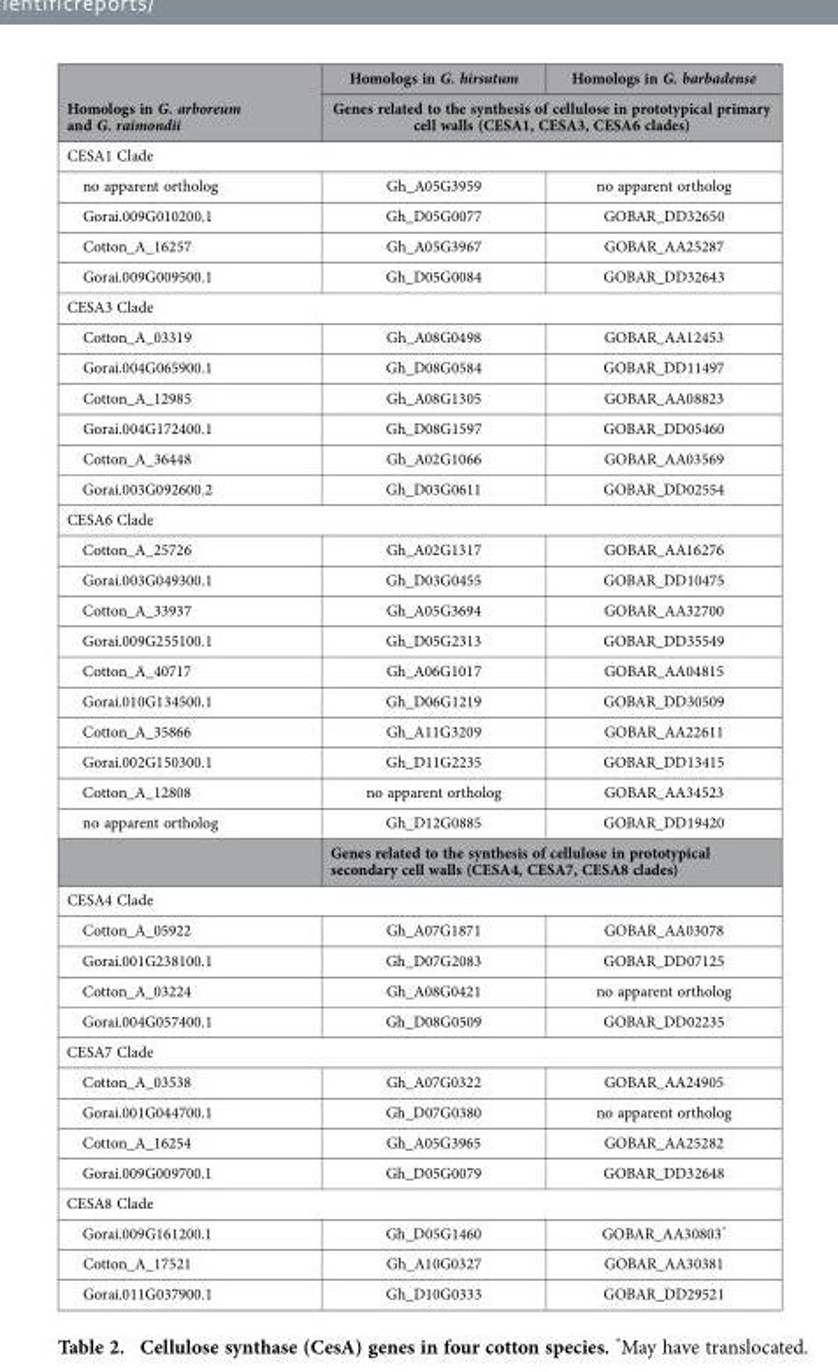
<table><thead><tr><td rowspan="2">Homologs in G. arboreum and G. raimondii</td><td>Homologs in G. hirsutum</td><td>Homologs in G. barbadense</td></tr><tr><td colspan="2">Genes related to the synthesis of cellulose in prototypical primary cell walls (CESA1, CESA3, CESA6 clades)</td></tr></thead><tbody><tr><td colspan="3">CESA1 Clade</td></tr><tr><td>no apparent ortholog</td><td>Gh_A05G3959</td><td>no apparent ortholog</td></tr><tr><td>Gorai.009G010200.1</td><td>Gh_D05G0077</td><td>GOBAR_DD32650</td></tr><tr><td>Cotton_A_16257</td><td>Gh_A05G3967</td><td>GOBAR_AA25287</td></tr><tr><td>Gorai.009G009500.1</td><td>Gh_D05G0084</td><td>GOBAR_DD32643</td></tr><tr><td colspan="3">CESA3 Clade</td></tr><tr><td>Cotton_A_03319</td><td>Gh_A08G0498</td><td>GOBAR_AA12453</td></tr><tr><td>Gorai.004G065900.1</td><td>Gh_D08G0584</td><td>GOBAR_DD11497</td></tr><tr><td>Cotton_A_12985</td><td>Gh_A08G1305</td><td>GOBAR_AA08823</td></tr><tr><td>Gorai.004G172400.1</td><td>Gh_D08G1597</td><td>GOBAR_DD05460</td></tr><tr><td>Cotton_A_36448</td><td>Gh_A02G1066</td><td>GOBAR_AA03569</td></tr><tr><td>Gorai.003G092600.2</td><td>Gh_D03G0611</td><td>GOBAR_DD02554</td></tr><tr><td colspan="3">CESA6 Clade</td></tr><tr><td>Cotton_A_25726</td><td>Gh_A02G1317</td><td>GOBAR_AA16276</td></tr><tr><td>Gorai.003G049300.1</td><td>Gh_D03G0455</td><td>GOBAR_DD10475</td></tr><tr><td>Cotton_A_33937</td><td>Gh_A05G3694</td><td>GOBAR_AA32700</td></tr><tr><td>Gorai.009G255100.1</td><td>Gh_D05G2313</td><td>GOBAR_DD35549</td></tr><tr><td>Cotton_A_40717</td><td>Gh_A06G1017</td><td>GOBAR_AA04815</td></tr><tr><td>Gorai.010G134500.1</td><td>Gh_D06G1219</td><td>GOBAR_DD30509</td></tr><tr><td>Cotton_A_35866</td><td>Gh_A11G3209</td><td>GOBAR_AA22611</td></tr><tr><td>Gorai.002G150300.1</td><td>Gh_D11G2235</td><td>GOBAR_DD13415</td></tr><tr><td>Cotton_A_12808</td><td>no apparent ortholog</td><td>GOBAR_AA34523</td></tr><tr><td rowspan="2">no apparent ortholog</td><td>Gh_D12G0885</td><td>GOBAR_DD19420</td></tr><tr><td colspan="2">Genes related to the synthesis of cellulose in prototypical secondary cell walls (CESA4, CESA7, CESA8 clades)</td></tr><tr><td colspan="3">CESA4 Clade</td></tr><tr><td>Cotton_A_05922</td><td>Gh_A07G1871</td><td>GOBAR_AA03078</td></tr><tr><td>Gorai.001G238100.1</td><td>Gh_D07G2083</td><td>GOBAR_DD07125</td></tr><tr><td>Cotton_A_03224</td><td>Gh_A08G0421</td><td>no apparent ortholog</td></tr><tr><td>Gorai.004G057400.1</td><td>Gh_D08G0509</td><td>GOBAR_DD02235</td></tr><tr><td colspan="3">CESA7 Clade</td></tr><tr><td>Cotton_A_03538</td><td>Gh_A07G0322</td><td>GOBAR_AA24905</td></tr><tr><td>Gorai.001G044700.1</td><td>Gh_D07G0380</td><td>no apparent ortholog</td></tr><tr><td>Cotton_A_16254</td><td>Gh_A05G3965</td><td>GOBAR_AA25282</td></tr><tr><td>Gorai.009G009700.1</td><td>Gh_D05G0079</td><td>GOBAR_DD32648</td></tr><tr><td colspan="3">CESA8 Clade</td></tr><tr><td>Gorai.009G161200.1</td><td>Gh_D05G1460</td><td>GOBAR_AA30803*</td></tr><tr><td>Cotton_A_17521</td><td>Gh_A10G0327</td><td>GOBAR_AA30381</td></tr><tr><td>Gorai.011G037900.1</td><td>Gh_D10G0333</td><td>GOBAR_DD29521</td></tr></tbody></table>